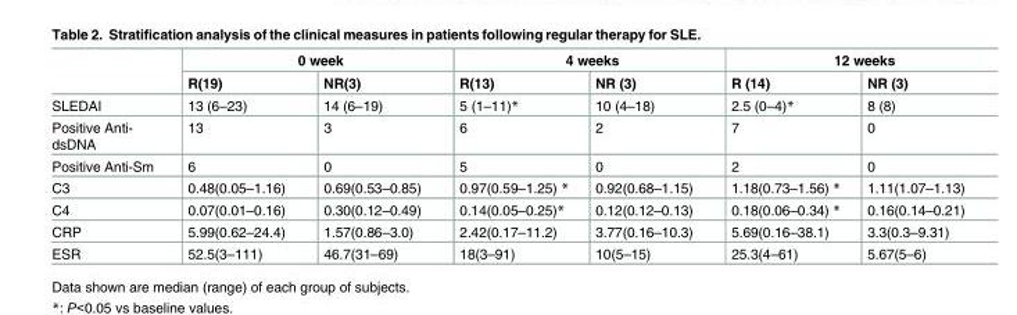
<table><thead><tr><td rowspan="2"></td><td colspan="2">0 week</td><td colspan="2">4 weeks</td><td colspan="2">12 weeks</td></tr><tr><td>R(19)</td><td>NR(3)</td><td>R(13)</td><td>NR (3)</td><td>R (14)</td><td>NR (3)</td></tr></thead><tbody><tr><td>SLEDAI</td><td>13 (6–23)</td><td>14 (6–19)</td><td>5 (1–11)*</td><td>10 (4–18)</td><td>2.5 (0–4)*</td><td>8 (8)</td></tr><tr><td>Positive Anti- dsDNA</td><td>13</td><td>3</td><td>6</td><td>2</td><td>7</td><td>0</td></tr><tr><td>Positive Anti-Sm</td><td>6</td><td>0</td><td>5</td><td>0</td><td>2</td><td>0</td></tr><tr><td>C3</td><td>0.48(0.05–1.16)</td><td>0.69(0.53–0.85)</td><td>0.97(0.59–1.25) *</td><td>0.92(0.68–1.15)</td><td>1.18(0.73–1.56) *</td><td>1.11(1.07–1.13)</td></tr><tr><td>C4</td><td>0.07(0.01–0.16)</td><td>0.30(0.12–0.49)</td><td>0.14(0.05–0.25)*</td><td>0.12(0.12–0.13)</td><td>0.18(0.06–0.34) *</td><td>0.16(0.14–0.21)</td></tr><tr><td>CRP</td><td>5.99(0.62–24.4)</td><td>1.57(0.86–3.0)</td><td>2.42(0.17–11.2)</td><td>3.77(0.16–10.3)</td><td>5.69(0.16–38.1)</td><td>3.3(0.3–9.31)</td></tr><tr><td>ESR</td><td>52.5(3–111)</td><td>46.7(31–69)</td><td>18(3–91)</td><td>10(5–15)</td><td>25.3(4–61)</td><td>5.67(5–6)</td></tr></tbody></table>